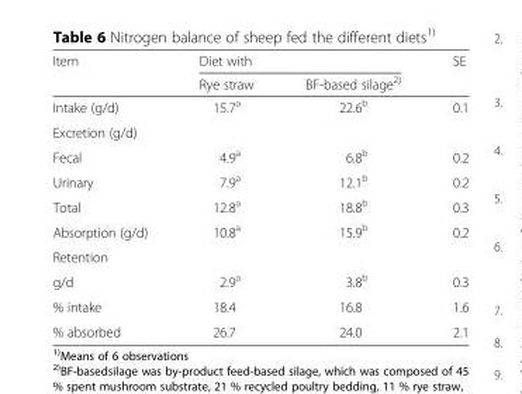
<table><thead><tr><td rowspan="2">Item</td><td colspan="2">Diet with</td><td rowspan="2">SE</td></tr><tr><td>Rye straw</td><td>BF-based silage<sup>2)</sup></td></tr></thead><tbody><tr><td>Intake (g/d)</td><td>15.7<sup>a</sup></td><td>22.6<sup>b</sup></td><td>0.1</td></tr><tr><td colspan="4">Excretion (g/d)</td></tr><tr><td>Fecal</td><td>4.9<sup>a</sup></td><td>6.8<sup>b</sup></td><td>0.2</td></tr><tr><td>Urinary</td><td>7.9<sup>a</sup></td><td>12.1<sup>b</sup></td><td>0.2</td></tr><tr><td>Total</td><td>12.8<sup>a</sup></td><td>18.8<sup>b</sup></td><td>0.3</td></tr><tr><td>Absorption (g/d)</td><td>10.8<sup>a</sup></td><td>15.9<sup>b</sup></td><td>0.2</td></tr><tr><td colspan="4">Retention</td></tr><tr><td>g/d</td><td>2.9<sup>a</sup></td><td>3.8<sup>b</sup></td><td>0.3</td></tr><tr><td>% intake</td><td>18.4</td><td>16.8</td><td>1.6</td></tr><tr><td>% absorbed</td><td>26.7</td><td>24.0</td><td>2.1</td></tr></tbody></table>